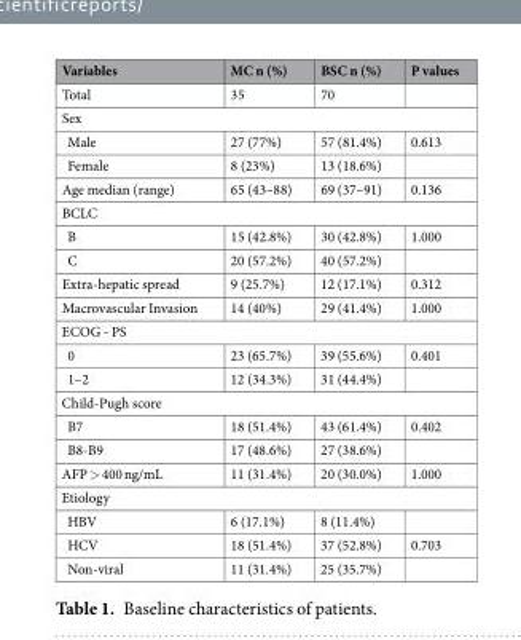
<table><thead><tr><td>Variables</td><td>MC n (%)</td><td>BSC n (%)</td><td>P values</td></tr></thead><tbody><tr><td>Total</td><td>35</td><td>70</td><td></td></tr><tr><td colspan="4">Sex</td></tr><tr><td>Male</td><td>27 (77%)</td><td>57 (81.4%)</td><td>0.613</td></tr><tr><td>Female</td><td>8 (23%)</td><td>13 (18.6%)</td><td></td></tr><tr><td>Age median (range)</td><td>65 (43–88)</td><td>69 (37–91)</td><td>0.136</td></tr><tr><td colspan="4">BCLC</td></tr><tr><td>B</td><td>15 (42.8%)</td><td>30 (42.8%)</td><td>1.000</td></tr><tr><td>C</td><td>20 (57.2%)</td><td>40 (57.2%)</td><td></td></tr><tr><td>Extra-hepatic spread</td><td>9 (25.7%)</td><td>12 (17.1%)</td><td>0.312</td></tr><tr><td>Macrovascular Invasion</td><td>14 (40%)</td><td>29 (41.4%)</td><td>1.000</td></tr><tr><td colspan="4">ECOG - PS</td></tr><tr><td>0</td><td>23 (65.7%)</td><td>39 (55.6%)</td><td>0.401</td></tr><tr><td>1–2</td><td>12 (34.3%)</td><td>31 (44.4%)</td><td></td></tr><tr><td colspan="4">Child-Pugh score</td></tr><tr><td>B7</td><td>18 (51.4%)</td><td>43 (61.4%)</td><td>0.402</td></tr><tr><td>B8-B9</td><td>17 (48.6%)</td><td>27 (38.6%)</td><td></td></tr><tr><td>AFP &gt; 400 ng/mL</td><td>11 (31.4%)</td><td>20 (30.0%)</td><td>1.000</td></tr><tr><td colspan="4">Etiology</td></tr><tr><td>HBV</td><td>6 (17.1%)</td><td>8 (11.4%)</td><td></td></tr><tr><td>HCV</td><td>18 (51.4%)</td><td>37 (52.8%)</td><td>0.703</td></tr><tr><td>Non-viral</td><td>11 (31.4%)</td><td>25 (35.7%)</td><td></td></tr></tbody></table>